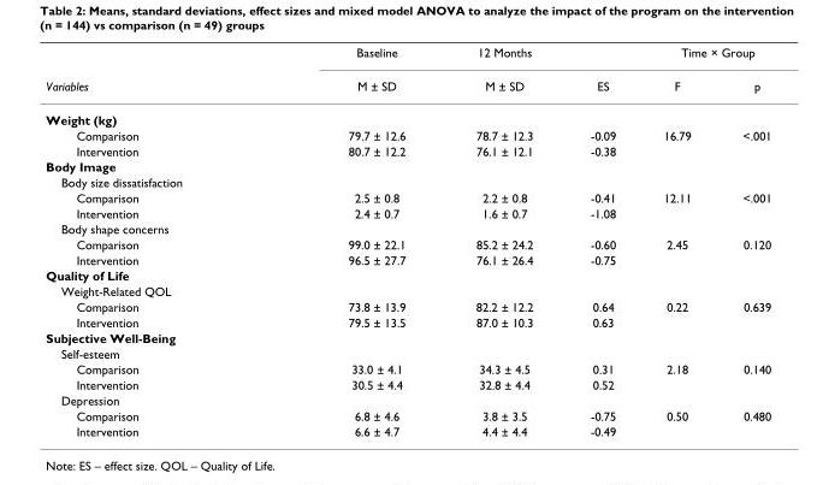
<table><thead><tr><td rowspan="2">Variables</td><td rowspan="2">Baseline M ± SD</td><td rowspan="2">12 Months M ± SD</td><td rowspan="2">ES</td><td colspan="2">Time × Group</td></tr><tr><td>F</td><td>p</td></tr></thead><tbody><tr><td colspan="6">Weight (kg)</td></tr><tr><td>Comparison</td><td>79.7 ± 12.6</td><td>78.7 ± 12.3</td><td>-0.09</td><td>16.79</td><td>&lt;.001</td></tr><tr><td>Intervention</td><td>80.7 ± 12.2</td><td>76.1 ± 12.1</td><td>-0.38</td><td></td><td></td></tr><tr><td colspan="6">Body Image</td></tr><tr><td colspan="6">Body size dissatisfaction</td></tr><tr><td>Comparison</td><td>2.5 ± 0.8</td><td>2.2 ± 0.8</td><td>-0.41</td><td>12.11</td><td>&lt;.001</td></tr><tr><td>Intervention</td><td>2.4 ± 0.7</td><td>1.6 ± 0.7</td><td>-1.08</td><td></td><td></td></tr><tr><td colspan="6">Body shape concerns</td></tr><tr><td>Comparison</td><td>99.0 ± 22.1</td><td>85.2 ± 24.2</td><td>-0.60</td><td>2.45</td><td>0.120</td></tr><tr><td>Intervention</td><td>96.5 ± 27.7</td><td>76.1 ± 26.4</td><td>-0.75</td><td></td><td></td></tr><tr><td colspan="6">Quality of Life</td></tr><tr><td colspan="6">Weight-Related QOL</td></tr><tr><td>Comparison</td><td>73.8 ± 13.9</td><td>82.2 ± 12.2</td><td>0.64</td><td>0.22</td><td>0.639</td></tr><tr><td>Intervention</td><td>79.5 ± 13.5</td><td>87.0 ± 10.3</td><td>0.63</td><td></td><td></td></tr><tr><td colspan="6">Subjective Well-Being</td></tr><tr><td colspan="6">Self-esteem</td></tr><tr><td>Comparison</td><td>33.0 ± 4.1</td><td>34.3 ± 4.5</td><td>0.31</td><td>2.18</td><td>0.140</td></tr><tr><td>Intervention</td><td>30.5 ± 4.4</td><td>32.8 ± 4.4</td><td>0.52</td><td></td><td></td></tr><tr><td colspan="6">Depression</td></tr><tr><td>Comparison</td><td>6.8 ± 4.6</td><td>3.8 ± 3.5</td><td>-0.75</td><td>0.50</td><td>0.480</td></tr><tr><td>Intervention</td><td>6.6 ± 4.7</td><td>4.4 ± 4.4</td><td>-0.49</td><td></td><td></td></tr></tbody></table>